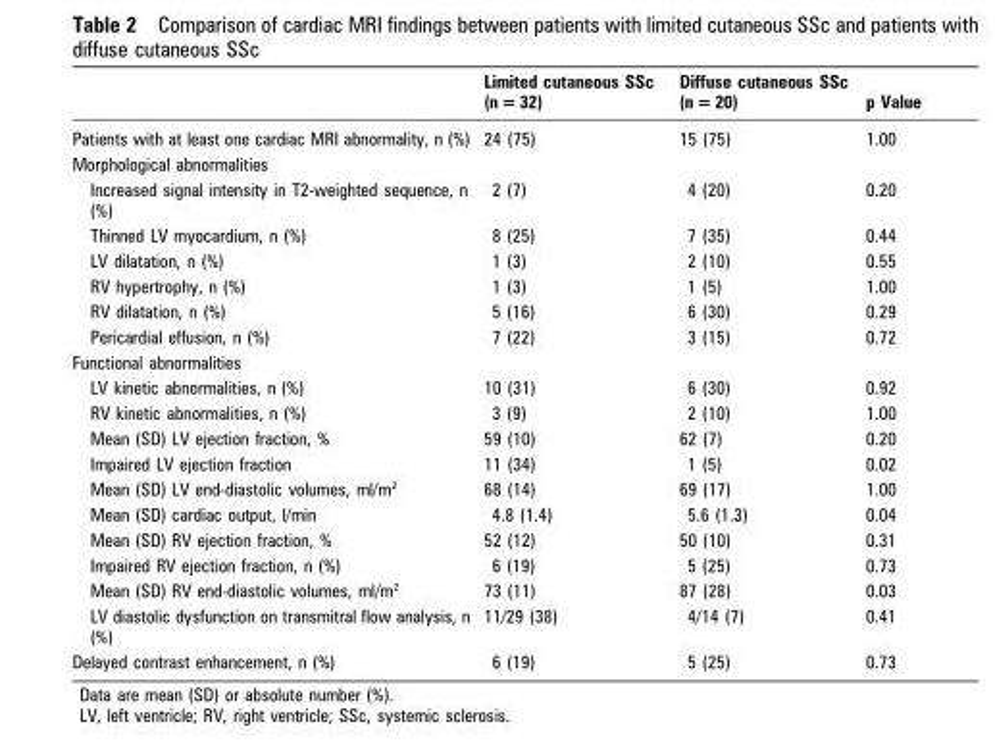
<table><thead><tr><td></td><td>Limited cutaneous SSc (n = 32)</td><td>Diffuse cutaneous SSc (n = 20)</td><td>p Value</td></tr></thead><tbody><tr><td>Patients with at least one cardiac MRI abnormality, n (%)</td><td>24 (75)</td><td>15 (75)</td><td>1.00</td></tr><tr><td colspan="4">Morphological abnormalities</td></tr><tr><td>Increased signal intensity in T2-weighted sequence, n (%)</td><td>2 (7)</td><td>4 (20)</td><td>0.20</td></tr><tr><td>Thinned LV myocardium, n (%)</td><td>8 (25)</td><td>7 (35)</td><td>0.44</td></tr><tr><td>LV dilatation, n (%)</td><td>1 (3)</td><td>2 (10)</td><td>0.55</td></tr><tr><td>RV hypertrophy, n (%)</td><td>1 (3)</td><td>1 (5)</td><td>1.00</td></tr><tr><td>RV dilatation, n (%)</td><td>5 (16)</td><td>6 (30)</td><td>0.29</td></tr><tr><td>Pericardial effusion, n (%)</td><td>7 (22)</td><td>3 (15)</td><td>0.72</td></tr><tr><td colspan="4">Functional abnormalities</td></tr><tr><td>LV kinetic abnormalities, n (%)</td><td>10 (31)</td><td>6 (30)</td><td>0.92</td></tr><tr><td>RV kinetic abnormalities, n (%)</td><td>3 (9)</td><td>2 (10)</td><td>1.00</td></tr><tr><td>Mean (SD) LV ejection fraction, %</td><td>59 (10)</td><td>62 (7)</td><td>0.20</td></tr><tr><td>Impaired LV ejection fraction</td><td>11 (34)</td><td>1 (5)</td><td>0.02</td></tr><tr><td>Mean (SD) LV end-diastolic volumes, ml/m<sup>2</sup></td><td>68 (14)</td><td>69 (17)</td><td>1.00</td></tr><tr><td>Mean (SD) cardiac output, l/min</td><td>4.8 (1.4)</td><td>5.6 (1.3)</td><td>0.04</td></tr><tr><td>Mean (SD) RV ejection fraction, %</td><td>52 (12)</td><td>50 (10)</td><td>0.31</td></tr><tr><td>Impaired RV ejection fraction, n (%)</td><td>6 (19)</td><td>5 (25)</td><td>0.73</td></tr><tr><td>Mean (SD) RV end-diastolic volumes, ml/m<sup>2</sup></td><td>73 (11)</td><td>87 (28)</td><td>0.03</td></tr><tr><td>LV diastolic dysfunction on transmitral flow analysis, n (%)</td><td>11/29 (38)</td><td>4/14 (7)</td><td>0.41</td></tr><tr><td>Delayed contrast enhancement, n (%)</td><td>6 (19)</td><td>5 (25)</td><td>0.73</td></tr></tbody></table>